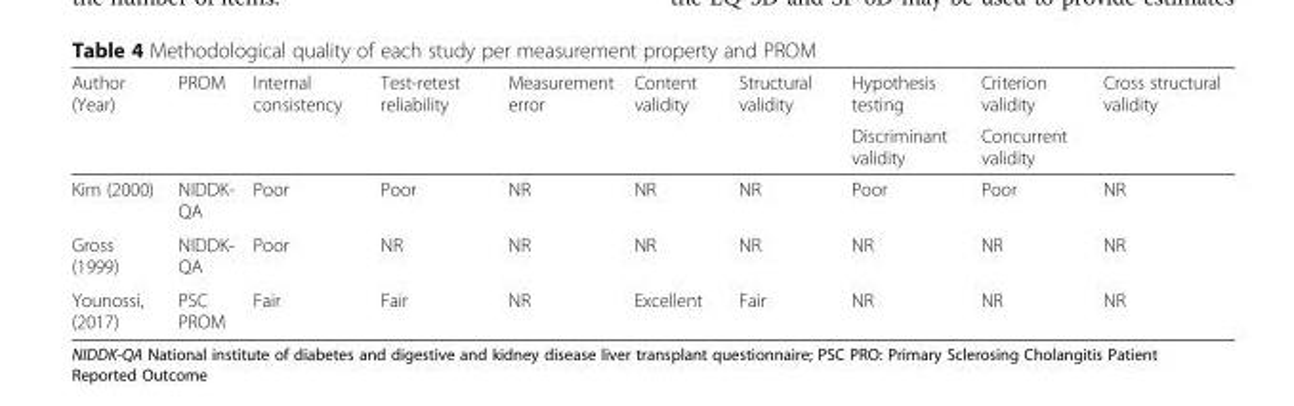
<table><thead><tr><td rowspan="2">Author (Year)</td><td rowspan="2">PROM</td><td rowspan="2">Internal consistency</td><td rowspan="2">Test-retest reliability</td><td rowspan="2">Measurement error</td><td rowspan="2">Content validity</td><td rowspan="2">Structural validity</td><td rowspan="2">Hypothesis testing Discriminant validity</td><td rowspan="2">Criterion validity Concurrent validity</td><td rowspan="2">Cross structural validity</td></tr><tr></tr></thead><tbody><tr><td>Kim (2000)</td><td>NIDDK- QA</td><td>Poor</td><td>Poor</td><td>NR</td><td>NR</td><td>NR</td><td>Poor</td><td>Poor</td><td>NR</td></tr><tr><td>Gross (1999)</td><td>NIDDK- QA</td><td>Poor</td><td>NR</td><td>NR</td><td>NR</td><td>NR</td><td>NR</td><td>NR</td><td>NR</td></tr><tr><td>Younossi, (2017)</td><td>PSC PROM</td><td>Fair</td><td>Fair</td><td>NR</td><td>Excellent</td><td>Fair</td><td>NR</td><td>NR</td><td>NR</td></tr></tbody></table>